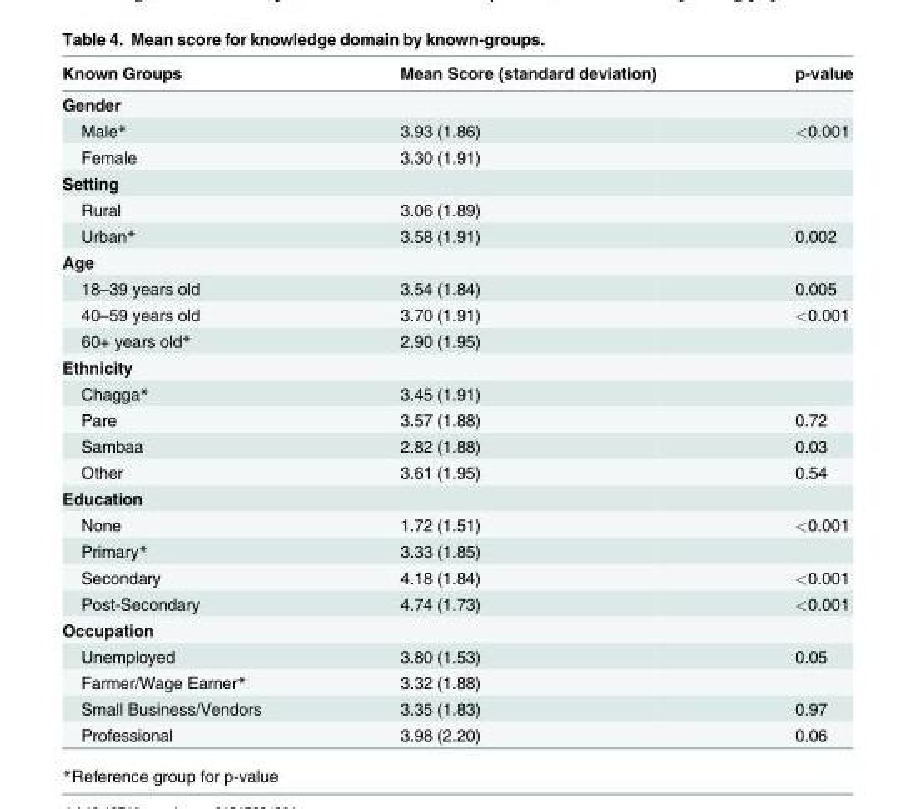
<table><thead><tr><td>Known Groups</td><td>Mean Score (standard deviation)</td><td>p-value</td></tr></thead><tbody><tr><td colspan="3">Gender</td></tr><tr><td>Male*</td><td>3.93 (1.86)</td><td>&lt;0.001</td></tr><tr><td>Female</td><td>3.30 (1.91)</td><td></td></tr><tr><td colspan="3">Setting</td></tr><tr><td>Rural</td><td>3.06 (1.89)</td><td></td></tr><tr><td>Urban*</td><td>3.58 (1.91)</td><td>0.002</td></tr><tr><td colspan="3">Age</td></tr><tr><td>18–39 years old</td><td>3.54 (1.84)</td><td>0.005</td></tr><tr><td>40–59 years old</td><td>3.70 (1.91)</td><td>&lt;0.001</td></tr><tr><td>60+ years old*</td><td>2.90 (1.95)</td><td></td></tr><tr><td colspan="3">Ethnicity</td></tr><tr><td>Chagga*</td><td>3.45 (1.91)</td><td></td></tr><tr><td>Pare</td><td>3.57 (1.88)</td><td>0.72</td></tr><tr><td>Sambaa</td><td>2.82 (1.88)</td><td>0.03</td></tr><tr><td>Other</td><td>3.61 (1.95)</td><td>0.54</td></tr><tr><td colspan="3">Education</td></tr><tr><td>None</td><td>1.72 (1.51)</td><td>&lt;0.001</td></tr><tr><td>Primary*</td><td>3.33 (1.85)</td><td></td></tr><tr><td>Secondary</td><td>4.18 (1.84)</td><td>&lt;0.001</td></tr><tr><td>Post-Secondary</td><td>4.74 (1.73)</td><td>&lt;0.001</td></tr><tr><td colspan="3">Occupation</td></tr><tr><td>Unemployed</td><td>3.80 (1.53)</td><td>0.05</td></tr><tr><td>Farmer/Wage Earner*</td><td>3.32 (1.88)</td><td></td></tr><tr><td>Small Business/Vendors</td><td>3.35 (1.83)</td><td>0.97</td></tr><tr><td>Professional</td><td>3.98 (2.20)</td><td>0.06</td></tr></tbody></table>